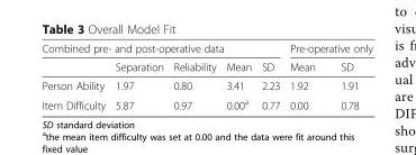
<table><thead><tr><td colspan="5">Combined pre- and post-operative data</td><td colspan="2">Pre-operative only</td></tr><tr><td></td><td>Separation</td><td>Reliability</td><td>Mean</td><td>SD</td><td>Mean</td><td>SD</td></tr></thead><tbody><tr><td>Person Ability</td><td>1.97</td><td>0.80</td><td>3.41</td><td>2.23</td><td>1.92</td><td>1.91</td></tr><tr><td>Item Difficulty</td><td>5.87</td><td>0.97</td><td>0.00<sup>a</sup></td><td>0.77</td><td>0.00</td><td>0.78</td></tr></tbody></table>